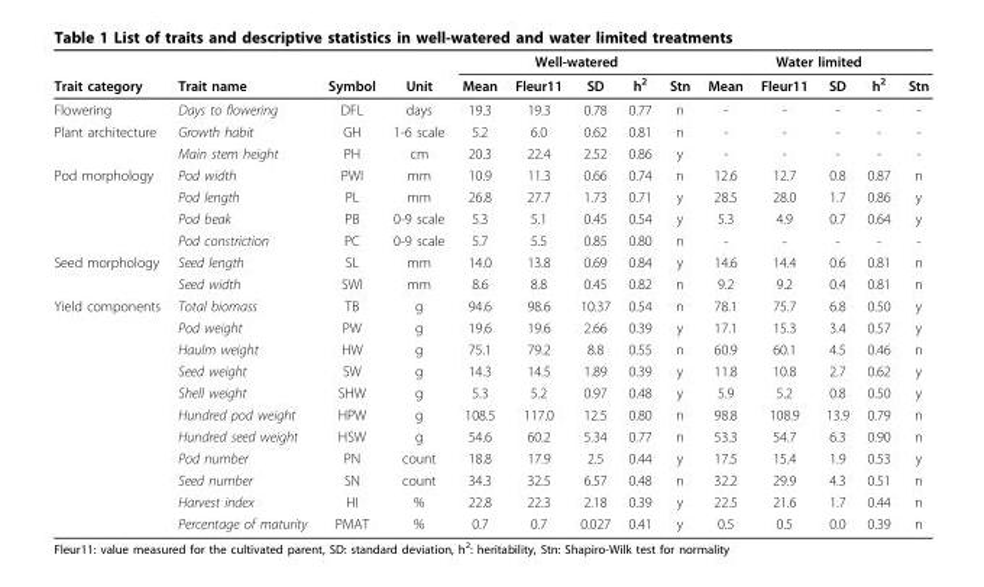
<table><thead><tr><td rowspan="2">Trait category</td><td rowspan="2">Trait name</td><td rowspan="2">Symbol</td><td rowspan="2">Unit</td><td colspan="5">Well-watered</td><td colspan="5">Water limited</td></tr><tr><td>Mean</td><td>Fleur11</td><td>SD</td><td>h<sup>2</sup></td><td>Stn</td><td>Mean</td><td>Fleur11</td><td>SD</td><td>h<sup>2</sup></td><td>Stn</td></tr></thead><tbody><tr><td>Flowering</td><td>Days to flowering</td><td>DFL</td><td>days</td><td>19.3</td><td>19.3</td><td>0.78</td><td>0.77</td><td>n</td><td>-</td><td>-</td><td>-</td><td>-</td><td>-</td></tr><tr><td rowspan="2">Plant architecture</td><td>Growth habit</td><td>GH</td><td>1-6 scale</td><td>5.2</td><td>6.0</td><td>0.62</td><td>0.81</td><td>n</td><td>-</td><td>-</td><td>-</td><td>-</td><td>-</td></tr><tr><td>Main stem height</td><td>PH</td><td>cm</td><td>20.3</td><td>22.4</td><td>2.52</td><td>0.86</td><td>y</td><td>-</td><td>-</td><td>-</td><td>-</td><td>-</td></tr><tr><td rowspan="4">Pod morphology</td><td>Pod width</td><td>PWI</td><td>mm</td><td>10.9</td><td>11.3</td><td>0.66</td><td>0.74</td><td>n</td><td>12.6</td><td>12.7</td><td>0.8</td><td>0.87</td><td>n</td></tr><tr><td>Pod length</td><td>PL</td><td>mm</td><td>26.8</td><td>27.7</td><td>1.73</td><td>0.71</td><td>y</td><td>28.5</td><td>28.0</td><td>1.7</td><td>0.86</td><td>y</td></tr><tr><td>Pod beak</td><td>PB</td><td>0-9 scale</td><td>5.3</td><td>5.1</td><td>0.45</td><td>0.54</td><td>y</td><td>5.3</td><td>4.9</td><td>0.7</td><td>0.64</td><td>y</td></tr><tr><td>Pod constriction</td><td>PC</td><td>0-9 scale</td><td>5.7</td><td>5.5</td><td>0.85</td><td>0.80</td><td>n</td><td>-</td><td>-</td><td>-</td><td>-</td><td>-</td></tr><tr><td rowspan="2">Seed morphology</td><td>Seed length</td><td>SL</td><td>mm</td><td>14.0</td><td>13.8</td><td>0.69</td><td>0.84</td><td>y</td><td>14.6</td><td>14.4</td><td>0.6</td><td>0.81</td><td>n</td></tr><tr><td>Seed width</td><td>SWI</td><td>mm</td><td>8.6</td><td>8.8</td><td>0.45</td><td>0.82</td><td>n</td><td>9.2</td><td>9.2</td><td>0.4</td><td>0.81</td><td>n</td></tr><tr><td rowspan="11">Yield components</td><td>Total biomass</td><td>TB</td><td>g</td><td>94.6</td><td>98.6</td><td>10.37</td><td>0.54</td><td>n</td><td>78.1</td><td>75.7</td><td>6.8</td><td>0.50</td><td>y</td></tr><tr><td>Pod weight</td><td>PW</td><td>g</td><td>19.6</td><td>19.6</td><td>2.66</td><td>0.39</td><td>y</td><td>17.1</td><td>15.3</td><td>3.4</td><td>0.57</td><td>y</td></tr><tr><td>Haulm weight</td><td>HW</td><td>g</td><td>75.1</td><td>79.2</td><td>8.8</td><td>0.55</td><td>n</td><td>60.9</td><td>60.1</td><td>4.5</td><td>0.46</td><td>n</td></tr><tr><td>Seed weight</td><td>SW</td><td>g</td><td>14.3</td><td>14.5</td><td>1.89</td><td>0.39</td><td>y</td><td>11.8</td><td>10.8</td><td>2.7</td><td>0.62</td><td>y</td></tr><tr><td>Shell weight</td><td>SHW</td><td>g</td><td>5.3</td><td>5.2</td><td>0.97</td><td>0.48</td><td>y</td><td>5.9</td><td>5.2</td><td>0.8</td><td>0.50</td><td>y</td></tr><tr><td>Hundred pod weight</td><td>HPW</td><td>g</td><td>108.5</td><td>117.0</td><td>12.5</td><td>0.80</td><td>n</td><td>98.8</td><td>108.9</td><td>13.9</td><td>0.79</td><td>n</td></tr><tr><td>Hundred seed weight</td><td>HSW</td><td>g</td><td>54.6</td><td>60.2</td><td>5.34</td><td>0.77</td><td>n</td><td>53.3</td><td>54.7</td><td>6.3</td><td>0.90</td><td>n</td></tr><tr><td>Pod number</td><td>PN</td><td>count</td><td>18.8</td><td>17.9</td><td>2.5</td><td>0.44</td><td>y</td><td>17.5</td><td>15.4</td><td>1.9</td><td>0.53</td><td>y</td></tr><tr><td>Seed number</td><td>SN</td><td>count</td><td>34.3</td><td>32.5</td><td>6.57</td><td>0.48</td><td>n</td><td>32.2</td><td>29.9</td><td>4.3</td><td>0.51</td><td>n</td></tr><tr><td>Harvest index</td><td>HI</td><td>%</td><td>22.8</td><td>22.3</td><td>2.18</td><td>0.39</td><td>y</td><td>22.5</td><td>21.6</td><td>1.7</td><td>0.44</td><td>n</td></tr><tr><td>Percentage of maturity</td><td>PMAT</td><td>%</td><td>0.7</td><td>0.7</td><td>0.027</td><td>0.41</td><td>y</td><td>0.5</td><td>0.5</td><td>0.0</td><td>0.39</td><td>n</td></tr></tbody></table>